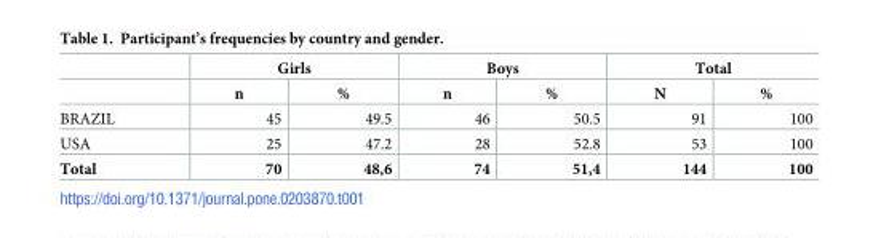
<table><thead><tr><td rowspan="2"></td><td colspan="2">Girls</td><td colspan="2">Boys</td><td colspan="2">Total</td></tr><tr><td>n</td><td>%</td><td>n</td><td>%</td><td>N</td><td>%</td></tr></thead><tbody><tr><td>BRAZIL</td><td>45</td><td>49.5</td><td>46</td><td>50.5</td><td>91</td><td>100</td></tr><tr><td>USA</td><td>25</td><td>47.2</td><td>28</td><td>52.8</td><td>53</td><td>100</td></tr><tr><td>Total</td><td>70</td><td>48,6</td><td>74</td><td>51,4</td><td>144</td><td>100</td></tr></tbody></table>